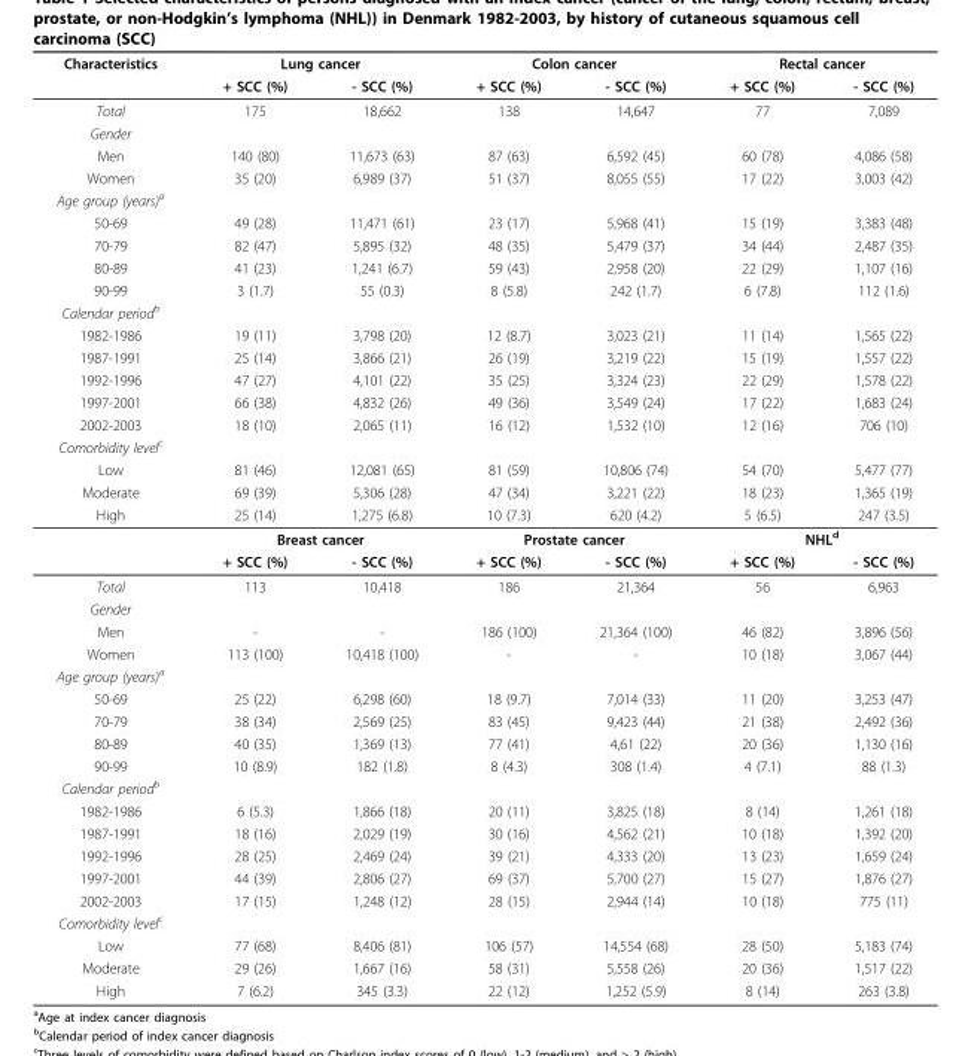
<table><thead><tr><td rowspan="2">Characteristics</td><td colspan="2">Lung cancer</td><td colspan="2">Colon cancer</td><td colspan="2">Rectal cancer</td></tr><tr><td>+ SCC (%)</td><td>- SCC (%)</td><td>+ SCC (%)</td><td>- SCC (%)</td><td>+ SCC (%)</td><td>- SCC (%)</td></tr></thead><tbody><tr><td>Total</td><td>175</td><td>18,662</td><td>138</td><td>14,647</td><td>77</td><td>7,089</td></tr><tr><td colspan="7">Gender</td></tr><tr><td>Men</td><td>140 (80)</td><td>11,673 (63)</td><td>87 (63)</td><td>6,592 (45)</td><td>60 (78)</td><td>4,086 (58)</td></tr><tr><td>Women</td><td>35 (20)</td><td>6,989 (37)</td><td>51 (37)</td><td>8,055 (55)</td><td>17 (22)</td><td>3,003 (42)</td></tr><tr><td colspan="7">Age group (years)<sup>a</sup></td></tr><tr><td>50-69</td><td>49 (28)</td><td>11,471 (61)</td><td>23 (17)</td><td>5,968 (41)</td><td>15 (19)</td><td>3,383 (48)</td></tr><tr><td>70-79</td><td>82 (47)</td><td>5,895 (32)</td><td>48 (35)</td><td>5,479 (37)</td><td>34 (44)</td><td>2,487 (35)</td></tr><tr><td>80-89</td><td>41 (23)</td><td>1,241 (6.7)</td><td>59 (43)</td><td>2,958 (20)</td><td>22 (29)</td><td>1,107 (16)</td></tr><tr><td>90-99</td><td>3 (1.7)</td><td>55 (0.3)</td><td>8 (5.8)</td><td>242 (1.7)</td><td>6 (7.8)</td><td>112 (1.6)</td></tr><tr><td colspan="7">Calendar period<sup>b</sup></td></tr><tr><td>1982-1986</td><td>19 (11)</td><td>3,798 (20)</td><td>12 (8.7)</td><td>3,023 (21)</td><td>11 (14)</td><td>1,565 (22)</td></tr><tr><td>1987-1991</td><td>25 (14)</td><td>3,866 (21)</td><td>26 (19)</td><td>3,219 (22)</td><td>15 (19)</td><td>1,557 (22)</td></tr><tr><td>1992-1996</td><td>47 (27)</td><td>4,101 (22)</td><td>35 (25)</td><td>3,324 (23)</td><td>22 (29)</td><td>1,578 (22)</td></tr><tr><td>1997-2001</td><td>66 (38)</td><td>4,832 (26)</td><td>49 (36)</td><td>3,549 (24)</td><td>17 (22)</td><td>1,683 (24)</td></tr><tr><td>2002-2003</td><td>18 (10)</td><td>2,065 (11)</td><td>16 (12)</td><td>1,532 (10)</td><td>12 (16)</td><td>706 (10)</td></tr><tr><td colspan="7">Comorbidity level<sup>c</sup></td></tr><tr><td>Low</td><td>81 (46)</td><td>12,081 (65)</td><td>81 (59)</td><td>10,806 (74)</td><td>54 (70)</td><td>5,477 (77)</td></tr><tr><td>Moderate</td><td>69 (39)</td><td>5,306 (28)</td><td>47 (34)</td><td>3,221 (22)</td><td>18 (23)</td><td>1,365 (19)</td></tr><tr><td rowspan="3">High</td><td>25 (14)</td><td>1,275 (6.8)</td><td>10 (7.3)</td><td>620 (4.2)</td><td>5 (6.5)</td><td>247 (3.5)</td></tr><tr><td colspan="2">Breast cancer</td><td colspan="2">Prostate cancer</td><td colspan="2">NHL<sup>d</sup></td></tr><tr><td>+ SCC (%)</td><td>- SCC (%)</td><td>+ SCC (%)</td><td>- SCC (%)</td><td>+ SCC (%)</td><td>- SCC (%)</td></tr><tr><td>Total</td><td>113</td><td>10,418</td><td>186</td><td>21,364</td><td>56</td><td>6,963</td></tr><tr><td colspan="7">Gender</td></tr><tr><td>Men</td><td>-</td><td>-</td><td>186 (100)</td><td>21,364 (100)</td><td>46 (82)</td><td>3,896 (56)</td></tr><tr><td>Women</td><td>113 (100)</td><td>10,418 (100)</td><td>-</td><td>-</td><td>10 (18)</td><td>3,067 (44)</td></tr><tr><td colspan="7">Age group (years)<sup>a</sup></td></tr><tr><td>50-69</td><td>25 (22)</td><td>6,298 (60)</td><td>18 (9.7)</td><td>7,014 (33)</td><td>11 (20)</td><td>3,253 (47)</td></tr><tr><td>70-79</td><td>38 (34)</td><td>2,569 (25)</td><td>83 (45)</td><td>9,423 (44)</td><td>21 (38)</td><td>2,492 (36)</td></tr><tr><td>80-89</td><td>40 (35)</td><td>1,369 (13)</td><td>77 (41)</td><td>4,61 (22)</td><td>20 (36)</td><td>1,130 (16)</td></tr><tr><td>90-99</td><td>10 (8.9)</td><td>182 (1.8)</td><td>8 (4.3)</td><td>308 (1.4)</td><td>4 (7.1)</td><td>88 (1.3)</td></tr><tr><td colspan="7">Calendar period<sup>b</sup></td></tr><tr><td>1982-1986</td><td>6 (5.3)</td><td>1,866 (18)</td><td>20 (11)</td><td>3,825 (18)</td><td>8 (14)</td><td>1,261 (18)</td></tr><tr><td>1987-1991</td><td>18 (16)</td><td>2,029 (19)</td><td>30 (16)</td><td>4,562 (21)</td><td>10 (18)</td><td>1,392 (20)</td></tr><tr><td>1992-1996</td><td>28 (25)</td><td>2,469 (24)</td><td>39 (21)</td><td>4,333 (20)</td><td>13 (23)</td><td>1,659 (24)</td></tr><tr><td>1997-2001</td><td>44 (39)</td><td>2,806 (27)</td><td>69 (37)</td><td>5,700 (27)</td><td>15 (27)</td><td>1,876 (27)</td></tr><tr><td>2002-2003</td><td>17 (15)</td><td>1,248 (12)</td><td>28 (15)</td><td>2,944 (14)</td><td>10 (18)</td><td>775 (11)</td></tr><tr><td colspan="7">Comorbidity level<sup>c</sup></td></tr><tr><td>Low</td><td>77 (68)</td><td>8,406 (81)</td><td>106 (57)</td><td>14,554 (68)</td><td>28 (50)</td><td>5,183 (74)</td></tr><tr><td>Moderate</td><td>29 (26)</td><td>1,667 (16)</td><td>58 (31)</td><td>5,558 (26)</td><td>20 (36)</td><td>1,517 (22)</td></tr><tr><td>High</td><td>7 (6.2)</td><td>345 (3.3)</td><td>22 (12)</td><td>1,252 (5.9)</td><td>8 (14)</td><td>263 (3.8)</td></tr></tbody></table>